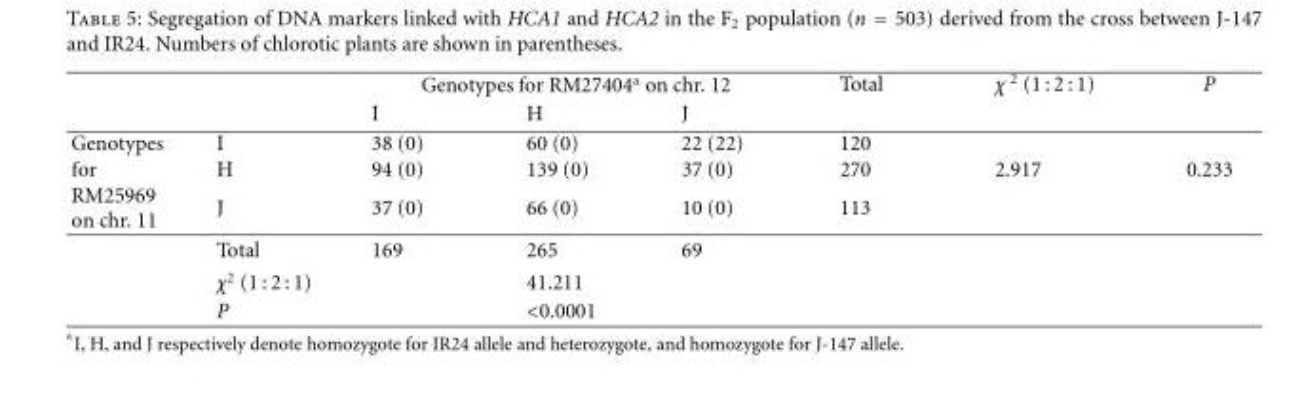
<table><thead><tr><td rowspan="2"></td><td rowspan="2"></td><td colspan="3">Genotypes for RM27404<sup>a</sup> on chr. 12</td><td rowspan="2">Total</td><td rowspan="2">χ <sup>2</sup> (1 : 2 : 1)</td><td rowspan="2">P</td></tr><tr><td>I</td><td>H</td><td>J</td></tr></thead><tbody><tr><td>Genotypes</td><td>I</td><td>38 (0)</td><td>60 (0)</td><td>22 (22)</td><td>120</td><td></td><td></td></tr><tr><td>for</td><td>H</td><td>94 (0)</td><td>139 (0)</td><td>37 (0)</td><td>270</td><td>2.917</td><td>0.233</td></tr><tr><td rowspan="4">RM25969 on chr. 11</td><td>J</td><td>37 (0)</td><td>66 (0)</td><td>10 (0)</td><td>113</td><td></td><td></td></tr><tr><td>Total</td><td>169</td><td>265</td><td>69</td><td></td><td></td><td></td></tr><tr><td>χ<sup>2</sup> (1 : 2 : 1)</td><td></td><td>41.211</td><td></td><td></td><td></td><td></td></tr><tr><td>P</td><td></td><td>&lt;0.0001</td><td></td><td></td><td></td><td></td></tr></tbody></table>